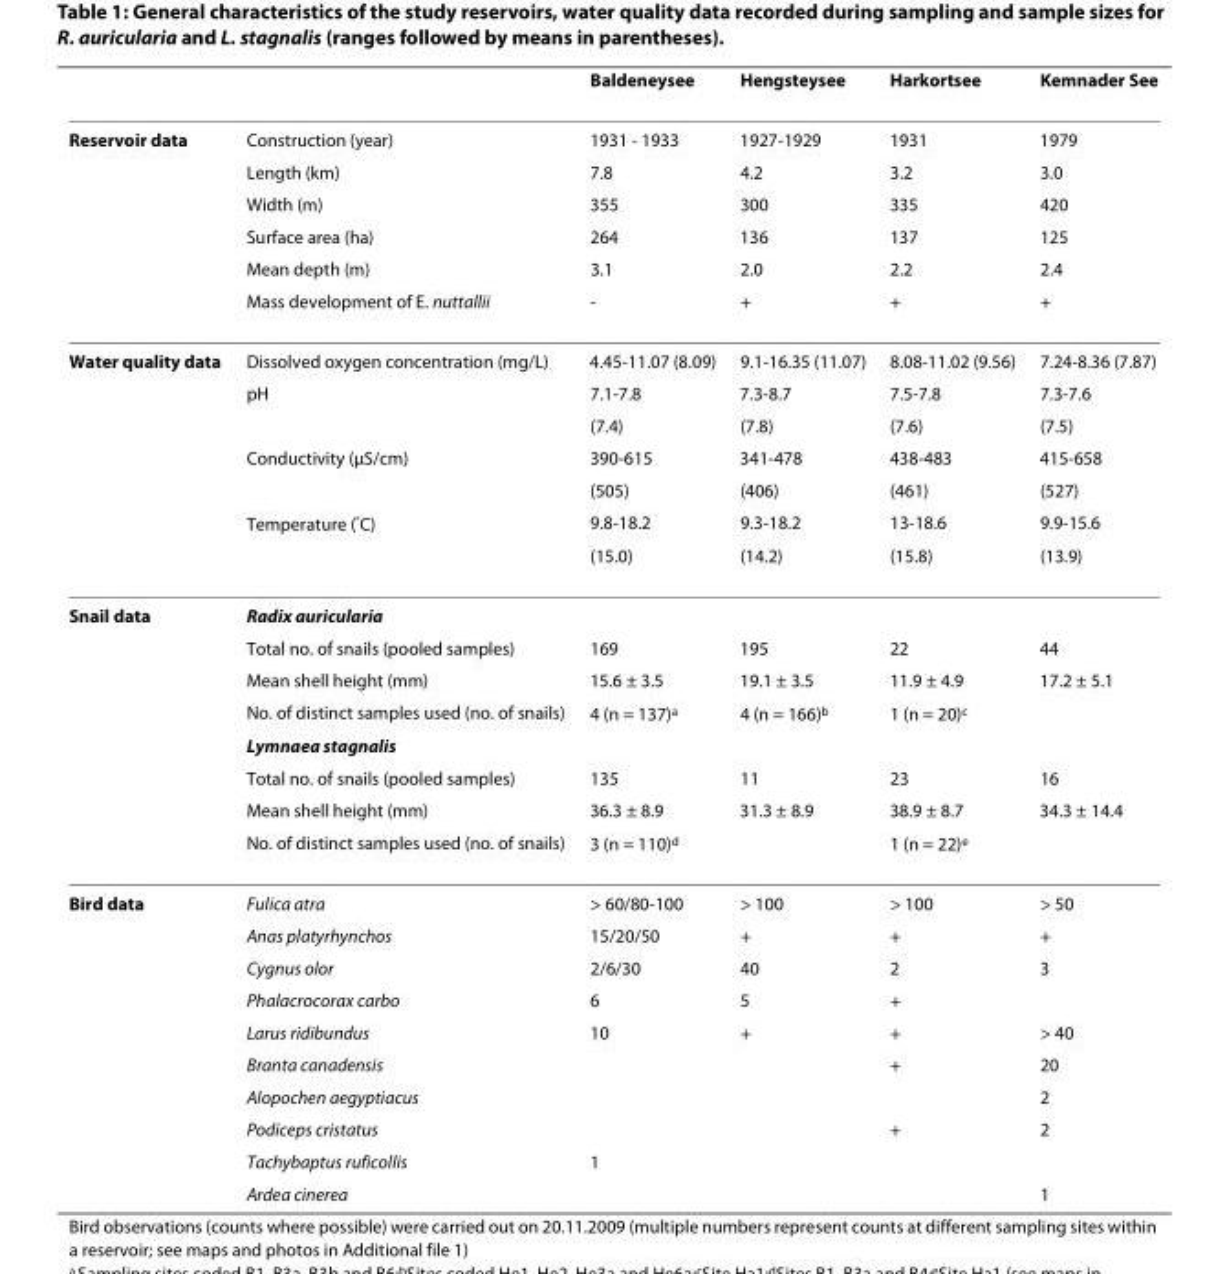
<table><thead><tr><td></td><td></td><td>Baldeneysee</td><td>Hengsteysee</td><td>Harkortsee</td><td>Kemnader See</td></tr></thead><tbody><tr><td rowspan="6">Reservoir data</td><td>Construction (year)</td><td>1931 - 1933</td><td>1927-1929</td><td>1931</td><td>1979</td></tr><tr><td>Length (km)</td><td>7.8</td><td>4.2</td><td>3.2</td><td>3.0</td></tr><tr><td>Width (m)</td><td>355</td><td>300</td><td>335</td><td>420</td></tr><tr><td>Surface area (ha)</td><td>264</td><td>136</td><td>137</td><td>125</td></tr><tr><td>Mean depth (m)</td><td>3.1</td><td>2.0</td><td>2.2</td><td>2.4</td></tr><tr><td>Mass development of E. nuttallii</td><td>-</td><td>+</td><td>+</td><td>+</td></tr><tr><td rowspan="7">Water quality data</td><td>Dissolved oxygen concentration (mg/L)</td><td>4.45-11.07 (8.09)</td><td>9.1-16.35 (11.07)</td><td>8.08-11.02 (9.56)</td><td>7.24-8.36 (7.87)</td></tr><tr><td>pH</td><td>7.1-7.8</td><td>7.3-8.7</td><td>7.5-7.8</td><td>7.3-7.6</td></tr><tr><td></td><td>(7.4)</td><td>(7.8)</td><td>(7.6)</td><td>(7.5)</td></tr><tr><td>Conductivity (μS/cm)</td><td>390-615</td><td>341-478</td><td>438-483</td><td>415-658</td></tr><tr><td></td><td>(505)</td><td>(406)</td><td>(461)</td><td>(527)</td></tr><tr><td>Temperature (<sup>°</sup>C)</td><td>9.8-18.2</td><td>9.3-18.2</td><td>13-18.6</td><td>9.9-15.6</td></tr><tr><td></td><td>(15.0)</td><td>(14.2)</td><td>(15.8)</td><td>(13.9)</td></tr><tr><td rowspan="8">Snail data</td><td>Radix auricularia</td><td></td><td></td><td></td><td></td></tr><tr><td>Total no. of snails (pooled samples)</td><td>169</td><td>195</td><td>22</td><td>44</td></tr><tr><td>Mean shell height (mm)</td><td>15.6 ± 3.5</td><td>19.1 ± 3.5</td><td>11.9 ± 4.9</td><td>17.2 ± 5.1</td></tr><tr><td>No. of distinct samples used (no. of snails)</td><td>4 (n = 137)<sup>a</sup></td><td>4 (n = 166)<sup>b</sup></td><td>1 (n = 20)<sup>c</sup></td><td></td></tr><tr><td>Lymnaea stagnalis</td><td></td><td></td><td></td><td></td></tr><tr><td>Total no. of snails (pooled samples)</td><td>135</td><td>11</td><td>23</td><td>16</td></tr><tr><td>Mean shell height (mm)</td><td>36.3 ± 8.9</td><td>31.3 ± 8.9</td><td>38.9 ± 8.7</td><td>34.3 ± 14.4</td></tr><tr><td>No. of distinct samples used (no. of snails)</td><td>3 (n = 110)<sup>d</sup></td><td></td><td>1 (n = 22)<sup>e</sup></td><td></td></tr><tr><td rowspan="10">Bird data</td><td>Fulica atra</td><td>&gt; 60/80-100</td><td>&gt; 100</td><td>&gt; 100</td><td>&gt; 50</td></tr><tr><td>Anas platyrhynchos</td><td>15/20/50</td><td>+</td><td>+</td><td>+</td></tr><tr><td>Cygnus olor</td><td>2/6/30</td><td>40</td><td>2</td><td>3</td></tr><tr><td>Phalacrocorax carbo</td><td>6</td><td>5</td><td>+</td><td></td></tr><tr><td>Larus ridibundus</td><td>10</td><td>+</td><td>+</td><td>&gt; 40</td></tr><tr><td>Branta canadensis</td><td></td><td></td><td>+</td><td>20</td></tr><tr><td>Alopochen aegyptiacus</td><td></td><td></td><td></td><td>2</td></tr><tr><td>Podiceps cristatus</td><td></td><td></td><td>+</td><td>2</td></tr><tr><td>Tachybaptus ruficollis</td><td>1</td><td></td><td></td><td></td></tr><tr><td>Ardea cinerea</td><td></td><td></td><td></td><td>1</td></tr></tbody></table>